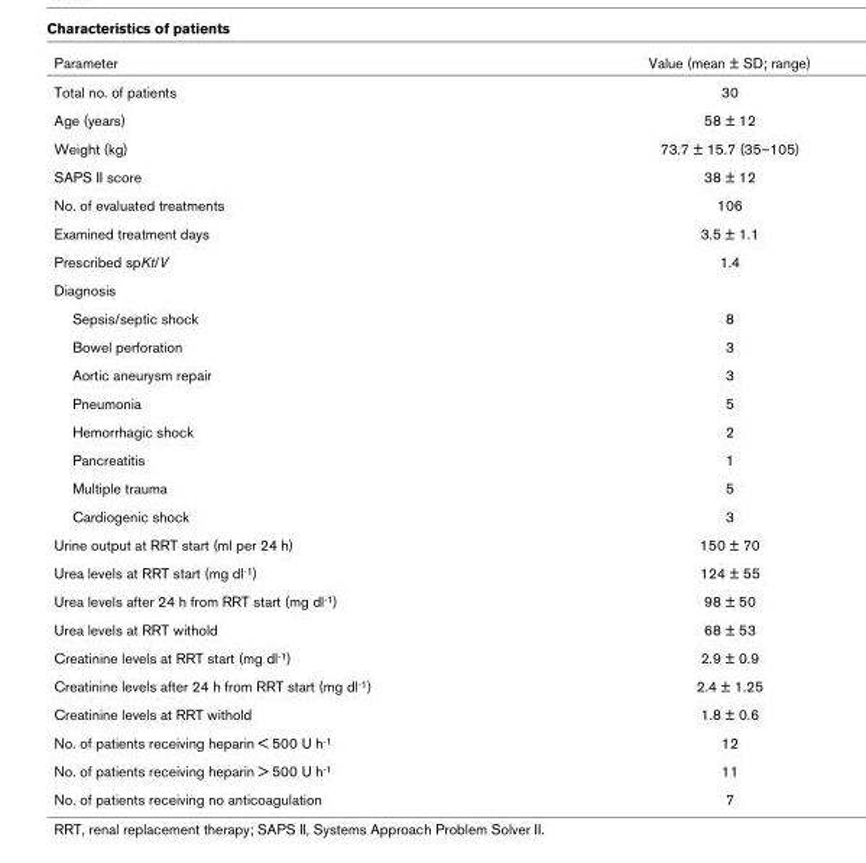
<table><thead><tr><td>Parameter</td><td>Value (mean ± SD; range)</td></tr></thead><tbody><tr><td>Total no. of patients</td><td>30</td></tr><tr><td>Age (years)</td><td>58 ± 12</td></tr><tr><td>Weight (kg)</td><td>73.7 ± 15.7 (35–105)</td></tr><tr><td>SAPS II score</td><td>38 ± 12</td></tr><tr><td>No. of evaluated treatments</td><td>106</td></tr><tr><td>Examined treatment days</td><td>3.5 ± 1.1</td></tr><tr><td>Prescribed spKt/V</td><td>1.4</td></tr><tr><td colspan="2">Diagnosis</td></tr><tr><td>Sepsis/septic shock</td><td>8</td></tr><tr><td>Bowel perforation</td><td>3</td></tr><tr><td>Aortic aneurysm repair</td><td>3</td></tr><tr><td>Pneumonia</td><td>5</td></tr><tr><td>Hemorrhagic shock</td><td>2</td></tr><tr><td>Pancreatitis</td><td>1</td></tr><tr><td>Multiple trauma</td><td>5</td></tr><tr><td>Cardiogenic shock</td><td>3</td></tr><tr><td>Urine output at RRT start (ml per 24 h)</td><td>150 ± 70</td></tr><tr><td>Urea levels at RRT start (mg dl-1)</td><td>124 ± 55</td></tr><tr><td>Urea levels after 24 h from RRT start (mg dl-1)</td><td>98 ± 50</td></tr><tr><td>Urea levels at RRT withold</td><td>68 ± 53</td></tr><tr><td>Creatinine levels at RRT start (mg dl-1)</td><td>2.9 ± 0.9</td></tr><tr><td>Creatinine levels after 24 h from RRT start (mg dl-1)</td><td>2.4 ± 1.25</td></tr><tr><td>Creatinine levels at RRT withold</td><td>1.8 ± 0.6</td></tr><tr><td>No. of patients receiving heparin &lt; 500 U h-1</td><td>12</td></tr><tr><td>No. of patients receiving heparin &gt; 500 U h-1</td><td>11</td></tr><tr><td>No. of patients receiving no anticoagulation</td><td>7</td></tr></tbody></table>